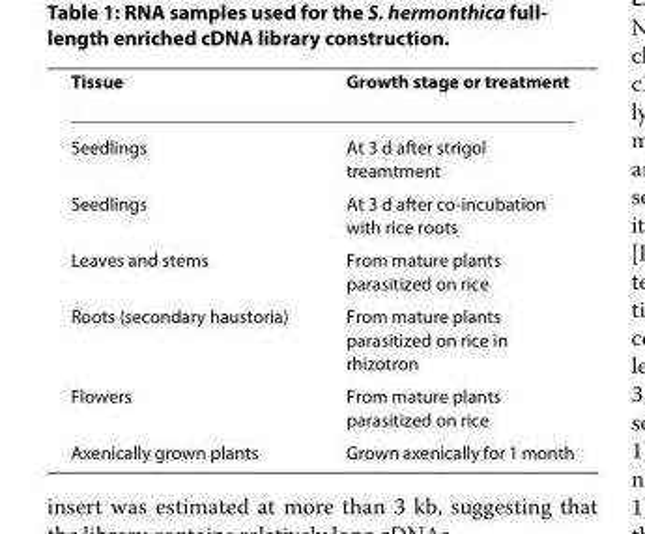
<table><thead><tr><td>Tissue</td><td>Growth stage or treatment</td></tr></thead><tbody><tr><td>Seedlings</td><td>At 3 d after strigol treamtment</td></tr><tr><td>Seedlings</td><td>At 3 d after co-incubation with rice roots</td></tr><tr><td>Leaves and stems</td><td>From mature plants parasitized on rice</td></tr><tr><td>Roots (secondary haustoria)</td><td>From mature plants parasitized on rice in rhizotron</td></tr><tr><td>Flowers</td><td>From mature plants parasitized on rice</td></tr><tr><td>Axenically grown plants</td><td>Grown axenically for 1 month</td></tr></tbody></table>